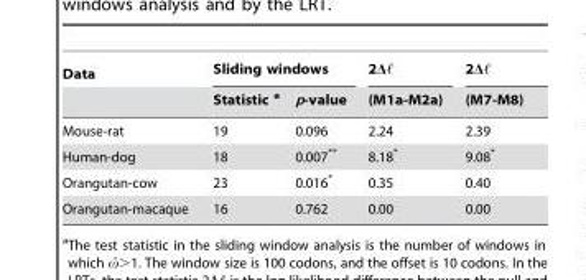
<table><thead><tr><td rowspan="2">Data</td><td colspan="2">Sliding windows</td><td rowspan="2">2D, (M1a-M2a)</td><td rowspan="2">2D, (M7-M8)</td></tr><tr><td>Statistic a</td><td>p-value</td></tr></thead><tbody><tr><td>Mouse-rat</td><td>19</td><td>0.096</td><td>2.24</td><td>2.39</td></tr><tr><td>Human-dog</td><td>18</td><td>0.007**</td><td>8.18*</td><td>9.08*</td></tr><tr><td>Orangutan-cow</td><td>23</td><td>0.016*</td><td>0.35</td><td>0.40</td></tr><tr><td>Orangutan-macaque</td><td>16</td><td>0.762</td><td>0.00</td><td>0.00</td></tr></tbody></table>